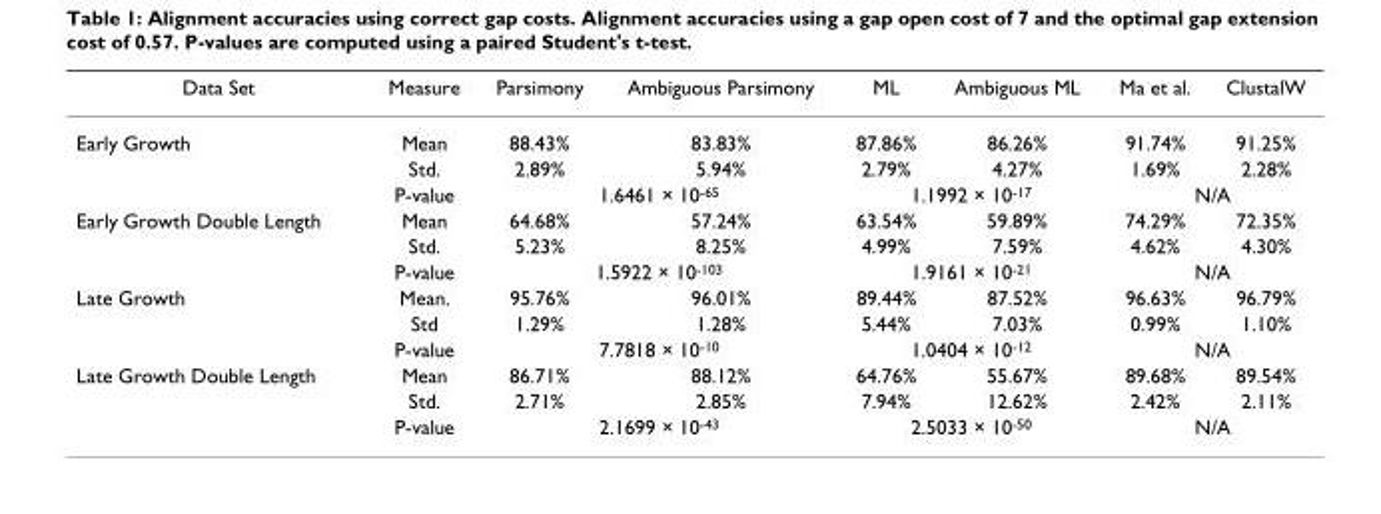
<table><thead><tr><td>Data Set</td><td>Measure</td><td>Parsimony</td><td>Ambiguous Parsimony</td><td>ML</td><td>Ambiguous ML</td><td>Ma et al.</td><td>ClustalW</td></tr></thead><tbody><tr><td rowspan="3">Early Growth</td><td>Mean</td><td>88.43%</td><td>83.83%</td><td>87.86%</td><td>86.26%</td><td>91.74%</td><td>91.25%</td></tr><tr><td>Std.</td><td>2.89%</td><td>5.94%</td><td>2.79%</td><td>4.27%</td><td>1.69%</td><td>2.28%</td></tr><tr><td>P-value</td><td colspan="2">1.6461 × 10<sup>-65</sup></td><td colspan="2">1.1992 × 10<sup>-17</sup></td><td colspan="2">N/A</td></tr><tr><td rowspan="3">Early Growth Double Length</td><td>Mean</td><td>64.68%</td><td>57.24%</td><td>63.54%</td><td>59.89%</td><td>74.29%</td><td>72.35%</td></tr><tr><td>Std.</td><td>5.23%</td><td>8.25%</td><td>4.99%</td><td>7.59%</td><td>4.62%</td><td>4.30%</td></tr><tr><td>P-value</td><td colspan="2">1.5922 × 10<sup>-103</sup></td><td colspan="2">1.9161 × 10<sup>-21</sup></td><td colspan="2">N/A</td></tr><tr><td rowspan="3">Late Growth</td><td>Mean.</td><td>95.76%</td><td>96.01%</td><td>89.44%</td><td>87.52%</td><td>96.63%</td><td>96.79%</td></tr><tr><td>Std</td><td>1.29%</td><td>1.28%</td><td>5.44%</td><td>7.03%</td><td>0.99%</td><td>1.10%</td></tr><tr><td>P-value</td><td colspan="2">7.7818 × 10<sup>-10</sup></td><td colspan="2">1.0404 × 10<sup>-12</sup></td><td colspan="2">N/A</td></tr><tr><td rowspan="3">Late Growth Double Length</td><td>Mean</td><td>86.71%</td><td>88.12%</td><td>64.76%</td><td>55.67%</td><td>89.68%</td><td>89.54%</td></tr><tr><td>Std.</td><td>2.71%</td><td>2.85%</td><td>7.94%</td><td>12.62%</td><td>2.42%</td><td>2.11%</td></tr><tr><td>P-value</td><td colspan="2">2.1699 × 10<sup>-43</sup></td><td colspan="2">2.5033 × 10<sup>-50</sup></td><td colspan="2">N/A</td></tr></tbody></table>